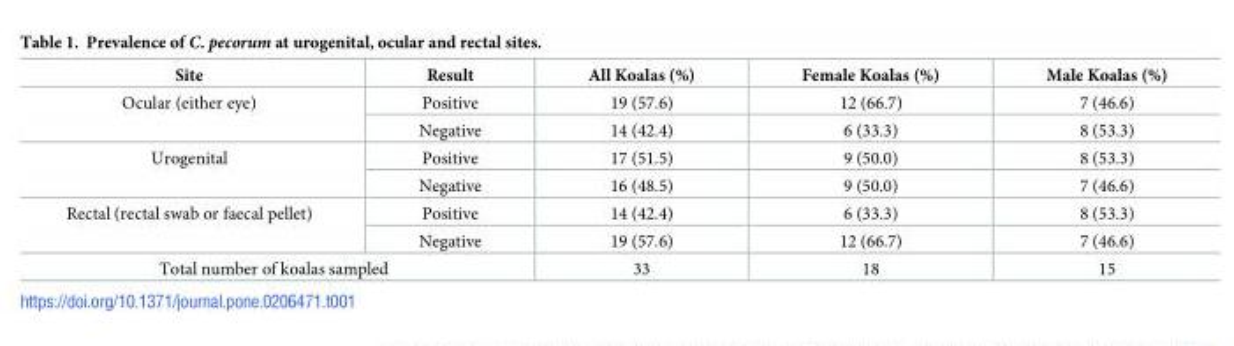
<table><thead><tr><td>Site</td><td>Result</td><td>All Koalas (%)</td><td>Female Koalas (%)</td><td>Male Koalas (%)</td></tr></thead><tbody><tr><td rowspan="2">Ocular (either eye)</td><td>Positive</td><td>19 (57.6)</td><td>12 (66.7)</td><td>7 (46.6)</td></tr><tr><td>Negative</td><td>14 (42.4)</td><td>6 (33.3)</td><td>8 (53.3)</td></tr><tr><td rowspan="2">Urogenital</td><td>Positive</td><td>17 (51.5)</td><td>9 (50.0)</td><td>8 (53.3)</td></tr><tr><td>Negative</td><td>16 (48.5)</td><td>9 (50.0)</td><td>7 (46.6)</td></tr><tr><td rowspan="2">Rectal (rectal swab or faecal pellet)</td><td>Positive</td><td>14 (42.4)</td><td>6 (33.3)</td><td>8 (53.3)</td></tr><tr><td>Negative</td><td>19 (57.6)</td><td>12 (66.7)</td><td>7 (46.6)</td></tr><tr><td colspan="2">Total number of koalas sampled</td><td>33</td><td>18</td><td>15</td></tr></tbody></table>